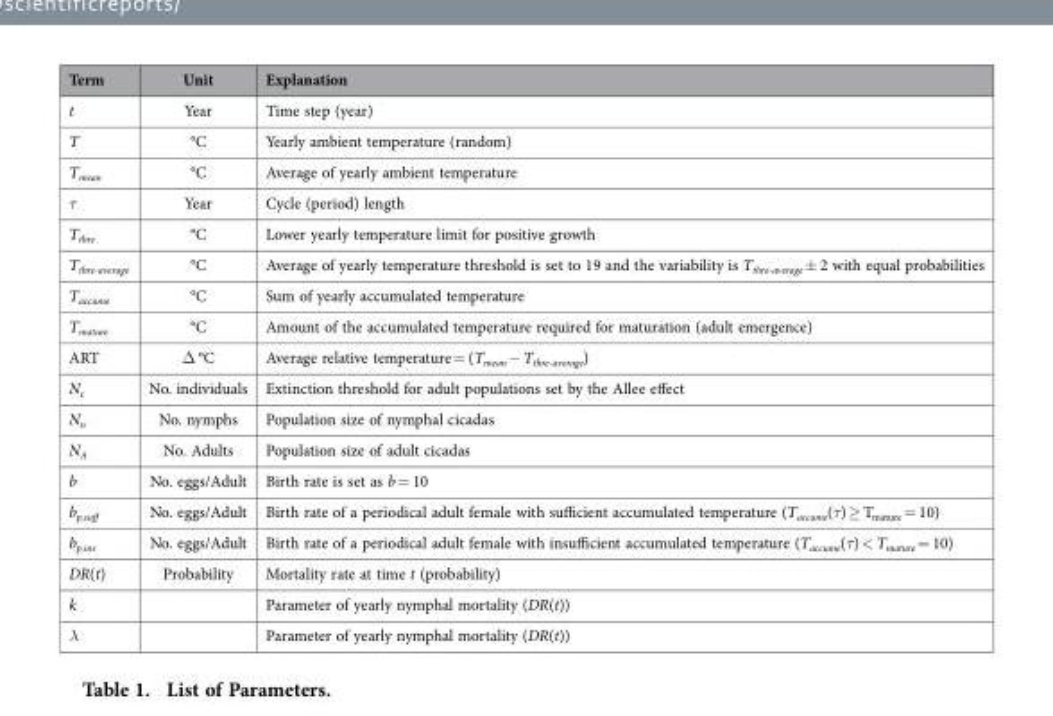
<table><thead><tr><td>Term</td><td>Unit</td><td>Explanation</td></tr></thead><tbody><tr><td>t</td><td>Year</td><td>Time step (year)</td></tr><tr><td>T</td><td>°C</td><td>Yearly ambient temperature (random)</td></tr><tr><td>T<sub>mean</sub></td><td>°C</td><td>Average of yearly ambient temperature</td></tr><tr><td>τ</td><td>Year</td><td>Cycle (period) length</td></tr><tr><td>T<sub>thre</sub></td><td>°C</td><td>Lower yearly temperature limit for positive growth</td></tr><tr><td>T<sub>thre-average</sub></td><td>°C</td><td>Average of yearly temperature threshold is set to 19 and the variability is T<sub>thre-average</sub> ± 2 with equal probabilities</td></tr><tr><td>T<sub>accume</sub></td><td>°C</td><td>Sum of yearly accumulated temperature</td></tr><tr><td>T<sub>mature</sub></td><td>°C</td><td>Amount of the accumulated temperature required for maturation (adult emergence)</td></tr><tr><td>ART</td><td>Δ °C</td><td>Average relative temperature = (T<sub>mean</sub> − T<sub>thre-average</sub>)</td></tr><tr><td>N<sub>c</sub></td><td>No. individuals</td><td>Extinction threshold for adult populations set by the Allee effect</td></tr><tr><td>N<sub>n</sub></td><td>No. nymphs</td><td>Population size of nymphal cicadas</td></tr><tr><td>N<sub>A</sub></td><td>No. Adults</td><td>Population size of adult cicadas</td></tr><tr><td>b</td><td>No. eggs/Adult</td><td>Birth rate is set as b = 10</td></tr><tr><td>b<sub>p,suff</sub></td><td>No. eggs/Adult</td><td>Birth rate of a periodical adult female with sufficient accumulated temperature (T<sub>accume</sub>(τ) ≥ T<sub>mature</sub> = 10)</td></tr><tr><td>b<sub>p,ins</sub></td><td>No. eggs/Adult</td><td>Birth rate of a periodical adult female with insufficient accumulated temperature (T<sub>accume</sub>(τ) &lt; T<sub>mature</sub> = 10)</td></tr><tr><td>DR(t)</td><td>Probability</td><td>Mortality rate at time t (probability)</td></tr><tr><td>k</td><td></td><td>Parameter of yearly nymphal mortality (DR(t))</td></tr><tr><td>λ</td><td></td><td>Parameter of yearly nymphal mortality (DR(t))</td></tr></tbody></table>